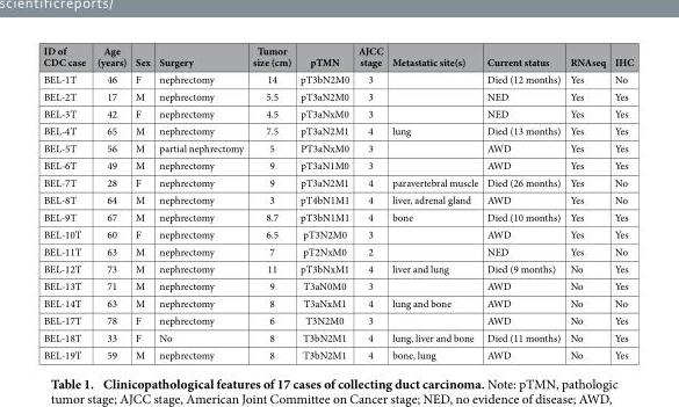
<table><thead><tr><td>ID of CDC case</td><td>Age (years)</td><td>Sex</td><td>Surgery</td><td>Tumor size (cm)</td><td>pTMN</td><td>AJCC stage</td><td>Metastatic site(s)</td><td>Current status</td><td>RNAseq</td><td>IHC</td></tr></thead><tbody><tr><td>BEL-1T</td><td>46</td><td>F</td><td>nephrectomy</td><td>14</td><td>pT3bN2M0</td><td>3</td><td></td><td>Died (12 months)</td><td>Yes</td><td>No</td></tr><tr><td>BEL-2T</td><td>17</td><td>M</td><td>nephrectomy</td><td>5.5</td><td>pT3aN2M0</td><td>3</td><td></td><td>NED</td><td>Yes</td><td>Yes</td></tr><tr><td>BEL-3T</td><td>42</td><td>F</td><td>nephrectomy</td><td>4.5</td><td>pT3aNxM0</td><td>3</td><td></td><td>NED</td><td>Yes</td><td>Yes</td></tr><tr><td>BEL-4T</td><td>65</td><td>M</td><td>nephrectomy</td><td>7.5</td><td>pT3aN2M1</td><td>4</td><td>lung</td><td>Died (13 months)</td><td>Yes</td><td>Yes</td></tr><tr><td>BEL-5T</td><td>56</td><td>M</td><td>partial nephrectomy</td><td>5</td><td>PT3aNxM0</td><td>3</td><td></td><td>AWD</td><td>Yes</td><td>Yes</td></tr><tr><td>BEL-6T</td><td>49</td><td>M</td><td>nephrectomy</td><td>9</td><td>pT3aN1M0</td><td>3</td><td></td><td>AWD</td><td>Yes</td><td>Yes</td></tr><tr><td>BEL-7T</td><td>28</td><td>F</td><td>nephrectomy</td><td>9</td><td>pT3aN2M1</td><td>4</td><td>paravertebral muscle</td><td>Died (26 months)</td><td>Yes</td><td>No</td></tr><tr><td>BEL-8T</td><td>64</td><td>M</td><td>nephrectomy</td><td>3</td><td>pT4bN1M1</td><td>4</td><td>liver, adrenal gland</td><td>AWD</td><td>Yes</td><td>No</td></tr><tr><td>BEL-9T</td><td>67</td><td>M</td><td>nephrectomy</td><td>8.7</td><td>pT3bN1M1</td><td>4</td><td>bone</td><td>Died (10 months)</td><td>Yes</td><td>Yes</td></tr><tr><td>BEL-10T</td><td>60</td><td>F</td><td>nephrectomy</td><td>6.5</td><td>pT3N2M0</td><td>3</td><td></td><td>AWD</td><td>Yes</td><td>Yes</td></tr><tr><td>BEL-11T</td><td>63</td><td>M</td><td>nephrectomy</td><td>7</td><td>pT2NxM0</td><td>2</td><td></td><td>NED</td><td>Yes</td><td>No</td></tr><tr><td>BEL-12T</td><td>73</td><td>M</td><td>nephrectomy</td><td>11</td><td>pT3bNxM1</td><td>4</td><td>liver and lung</td><td>Died (9 months)</td><td>No</td><td>Yes</td></tr><tr><td>BEL-13T</td><td>71</td><td>M</td><td>nephrectomy</td><td>9</td><td>T3aN0M0</td><td>3</td><td></td><td>AWD</td><td>No</td><td>Yes</td></tr><tr><td>BEL-14T</td><td>63</td><td>M</td><td>nephrectomy</td><td>8</td><td>T3aNxM1</td><td>4</td><td>lung and bone</td><td>AWD</td><td>No</td><td>No</td></tr><tr><td>BEL-17T</td><td>78</td><td>F</td><td>nephrectomy</td><td>6</td><td>T3N2M0</td><td>3</td><td></td><td>AWD</td><td>No</td><td>Yes</td></tr><tr><td>BEL-18T</td><td>33</td><td>F</td><td>No</td><td>8</td><td>T3bN2M1</td><td>4</td><td>lung, liver and bone</td><td>Died (11 months)</td><td>No</td><td>Yes</td></tr><tr><td>BEL-19T</td><td>59</td><td>M</td><td>nephrectomy</td><td>8</td><td>T3bN2M1</td><td>4</td><td>bone, lung</td><td>AWD</td><td>No</td><td>Yes</td></tr></tbody></table>